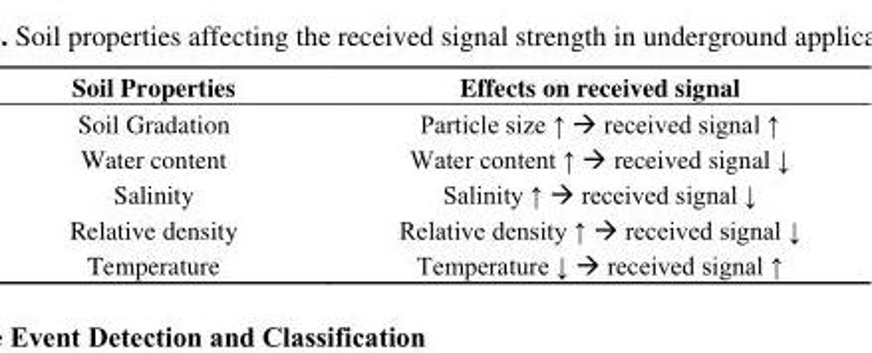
<table><thead><tr><td>Soil Properties</td><td>Effects on received signal</td></tr></thead><tbody><tr><td>Soil Gradation</td><td>Particle size ↑ → received signal ↑</td></tr><tr><td>Water content</td><td>Water content ↑ → received signal ↓</td></tr><tr><td>Salinity</td><td>Salinity ↑ → received signal ↓</td></tr><tr><td>Relative density</td><td>Relative density ↑ → received signal ↓</td></tr><tr><td>Temperature</td><td>Temperature ↓ → received signal ↑</td></tr></tbody></table>